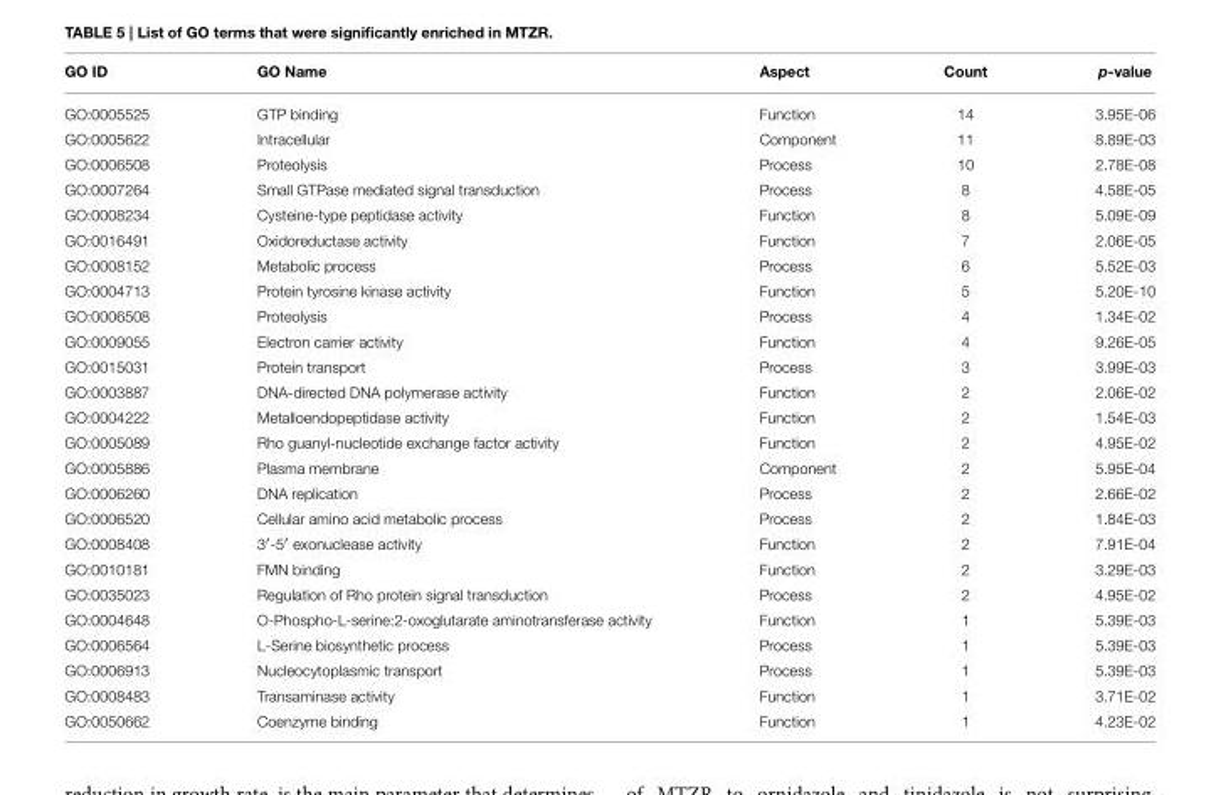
<table><thead><tr><td>GO ID</td><td>GO Name</td><td>Aspect</td><td>Count</td><td>p-value</td></tr></thead><tbody><tr><td>GO:0005525</td><td>GTP binding</td><td>Function</td><td>14</td><td>3.95E-06</td></tr><tr><td>GO:0005622</td><td>Intracellular</td><td>Component</td><td>11</td><td>8.89E-03</td></tr><tr><td>GO:0006508</td><td>Proteolysis</td><td>Process</td><td>10</td><td>2.78E-08</td></tr><tr><td>GO:0007264</td><td>Small GTPase mediated signal transduction</td><td>Process</td><td>8</td><td>4.58E-05</td></tr><tr><td>GO:0008234</td><td>Cysteine-type peptidase activity</td><td>Function</td><td>8</td><td>5.09E-09</td></tr><tr><td>GO:0016491</td><td>Oxidoreductase activity</td><td>Function</td><td>7</td><td>2.06E-05</td></tr><tr><td>GO:0008152</td><td>Metabolic process</td><td>Process</td><td>6</td><td>5.52E-03</td></tr><tr><td>GO:0004713</td><td>Protein tyrosine kinase activity</td><td>Function</td><td>5</td><td>5.20E-10</td></tr><tr><td>GO:0006508</td><td>Proteolysis</td><td>Process</td><td>4</td><td>1.34E-02</td></tr><tr><td>GO:0009055</td><td>Electron carrier activity</td><td>Function</td><td>4</td><td>9.26E-05</td></tr><tr><td>GO:0015031</td><td>Protein transport</td><td>Process</td><td>3</td><td>3.99E-03</td></tr><tr><td>GO:0003887</td><td>DNA-directed DNA polymerase activity</td><td>Function</td><td>2</td><td>2.06E-02</td></tr><tr><td>GO:0004222</td><td>Metalloendopeptidase activity</td><td>Function</td><td>2</td><td>1.54E-03</td></tr><tr><td>GO:0005089</td><td>Rho guanyl-nucleotide exchange factor activity</td><td>Function</td><td>2</td><td>4.95E-02</td></tr><tr><td>GO:0005886</td><td>Plasma membrane</td><td>Component</td><td>2</td><td>5.95E-04</td></tr><tr><td>GO:0006260</td><td>DNA replication</td><td>Process</td><td>2</td><td>2.66E-02</td></tr><tr><td>GO:0006520</td><td>Cellular amino acid metabolic process</td><td>Process</td><td>2</td><td>1.84E-03</td></tr><tr><td>GO:0008408</td><td>3′-5′ exonuclease activity</td><td>Function</td><td>2</td><td>7.91E-04</td></tr><tr><td>GO:0010181</td><td>FMN binding</td><td>Function</td><td>2</td><td>3.29E-03</td></tr><tr><td>GO:0035023</td><td>Regulation of Rho protein signal transduction</td><td>Process</td><td>2</td><td>4.95E-02</td></tr><tr><td>GO:0004648</td><td>O-Phospho-L-serine:2-oxoglutarate aminotransferase activity</td><td>Function</td><td>1</td><td>5.39E-03</td></tr><tr><td>GO:0006564</td><td>L-Serine biosynthetic process</td><td>Process</td><td>1</td><td>5.39E-03</td></tr><tr><td>GO:0006913</td><td>Nucleocytoplasmic transport</td><td>Process</td><td>1</td><td>5.39E-03</td></tr><tr><td>GO:0008483</td><td>Transaminase activity</td><td>Function</td><td>1</td><td>3.71E-02</td></tr><tr><td>GO:0050662</td><td>Coenzyme binding</td><td>Function</td><td>1</td><td>4.23E-02</td></tr></tbody></table>